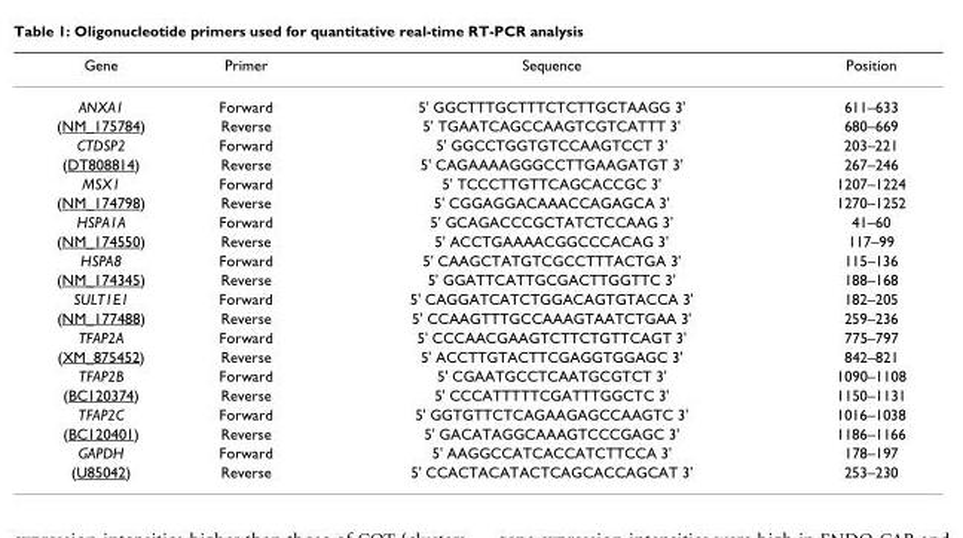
<table><thead><tr><td>Gene</td><td>Primer</td><td>Sequence</td><td>Position</td></tr></thead><tbody><tr><td>ANXA1</td><td>Forward</td><td>5&#x27; GGCTTTGCTTTCTCTTGCTAAGG 3&#x27;</td><td>611–633</td></tr><tr><td>(NM_175784)</td><td>Reverse</td><td>5&#x27; TGAATCAGCCAAGTCGTCATTT 3&#x27;</td><td>680–669</td></tr><tr><td>CTDSP2</td><td>Forward</td><td>5&#x27; GGCCTGGTGTCCAAGTCCT 3&#x27;</td><td>203–221</td></tr><tr><td>(DT808814)</td><td>Reverse</td><td>5&#x27; CAGAAAAGGGCCTTGAAGATGT 3&#x27;</td><td>267–246</td></tr><tr><td>MSX1</td><td>Forward</td><td>5&#x27; TCCCTTGTTCAGCACCGC 3&#x27;</td><td>1207–1224</td></tr><tr><td>(NM_174798)</td><td>Reverse</td><td>5&#x27; CGGAGGACAAACCAGAGCA 3&#x27;</td><td>1270–1252</td></tr><tr><td>HSPA1A</td><td>Forward</td><td>5&#x27; GCAGACCCGCTATCTCCAAG 3&#x27;</td><td>41–60</td></tr><tr><td>(NM_174550)</td><td>Reverse</td><td>5&#x27; ACCTGAAAACGGCCCACAG 3&#x27;</td><td>117–99</td></tr><tr><td>HSPA8</td><td>Forward</td><td>5&#x27; CAAGCTATGTCGCCTTTACTGA 3&#x27;</td><td>115–136</td></tr><tr><td>(NM_174345)</td><td>Reverse</td><td>5&#x27; GGATTCATTGCGACTTGGTTC 3&#x27;</td><td>188–168</td></tr><tr><td>SULT1E1</td><td>Forward</td><td>5&#x27; CAGGATCATCTGGACAGTGTACCA 3&#x27;</td><td>182–205</td></tr><tr><td>(NM_177488)</td><td>Reverse</td><td>5&#x27; CCAAGTTTGCCAAAGTAATCTGAA 3&#x27;</td><td>259–236</td></tr><tr><td>TFAP2A</td><td>Forward</td><td>5&#x27; CCCAACGAAGTCTTCTGTTCAGT 3&#x27;</td><td>775–797</td></tr><tr><td>(XM_875452)</td><td>Reverse</td><td>5&#x27; ACCTTGTACTTCGAGGTGGAGC 3&#x27;</td><td>842–821</td></tr><tr><td>TFAP2B</td><td>Forward</td><td>5&#x27; CGAATGCCTCAATGCGTCT 3&#x27;</td><td>1090–1108</td></tr><tr><td>(BC120374)</td><td>Reverse</td><td>5&#x27; CCCATTTTTCGATTTGGCTC 3&#x27;</td><td>1150–1131</td></tr><tr><td>TFAP2C</td><td>Forward</td><td>5&#x27; GGTGTTCTCAGAAGAGCCAAGTC 3&#x27;</td><td>1016–1038</td></tr><tr><td>(BC120401)</td><td>Reverse</td><td>5&#x27; GACATAGGCAAAGTCCCGAGC 3&#x27;</td><td>1186–1166</td></tr><tr><td>GAPDH</td><td>Forward</td><td>5&#x27; AAGGCCATCACCATCTTCCA 3&#x27;</td><td>178–197</td></tr><tr><td>(U85042)</td><td>Reverse</td><td>5&#x27; CCACTACATACTCAGCACCAGCAT 3&#x27;</td><td>253–230</td></tr></tbody></table>